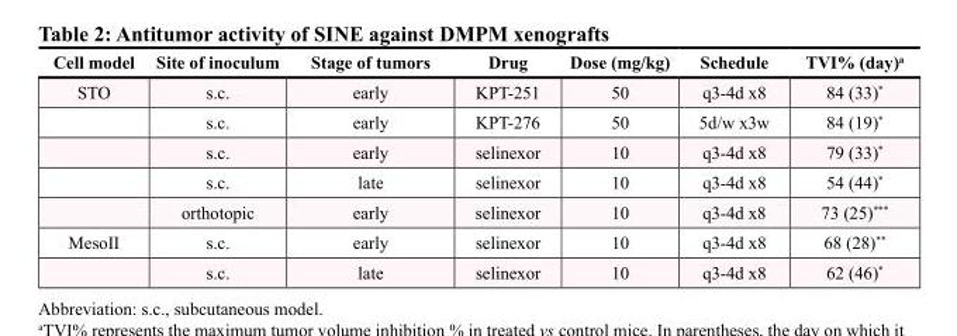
<table><thead><tr><td>Cell model</td><td>Site of inoculum</td><td>Stage of tumors</td><td>Drug</td><td>Dose (mg/kg)</td><td>Schedule</td><td>TVI% (day)<sup>a</sup></td></tr></thead><tbody><tr><td rowspan="5">STO</td><td>s.c.</td><td>early</td><td>KPT-251</td><td>50</td><td>q3-4d x8</td><td>84 (33)*</td></tr><tr><td>s.c.</td><td>early</td><td>KPT-276</td><td>50</td><td>5d/w x3w</td><td>84 (19)*</td></tr><tr><td>s.c.</td><td>early</td><td>selinexor</td><td>10</td><td>q3-4d x8</td><td>79 (33)*</td></tr><tr><td>s.c.</td><td>late</td><td>selinexor</td><td>10</td><td>q3-4d x8</td><td>54 (44)*</td></tr><tr><td>orthotopic</td><td>early</td><td>selinexor</td><td>10</td><td>q3-4d x8</td><td>73 (25)***</td></tr><tr><td rowspan="2">MesoII</td><td>s.c.</td><td>early</td><td>selinexor</td><td>10</td><td>q3-4d x8</td><td>68 (28)**</td></tr><tr><td>s.c.</td><td>late</td><td>selinexor</td><td>10</td><td>q3-4d x8</td><td>62 (46)*</td></tr></tbody></table>